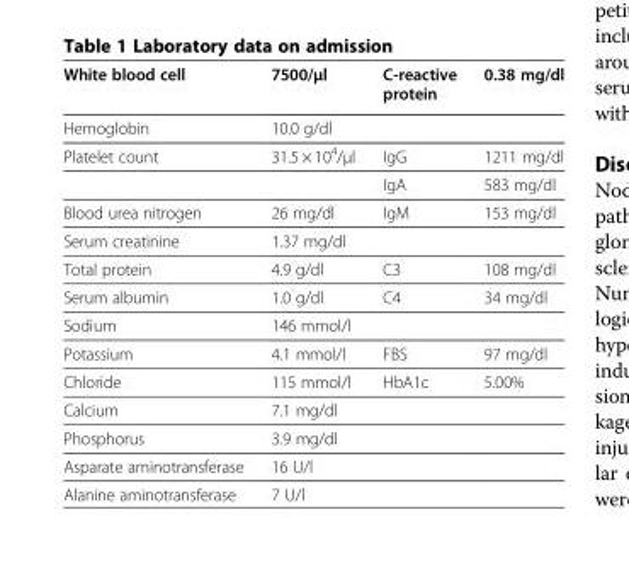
<table><thead><tr><td>White blood cell</td><td>7500/μl</td><td>C-reactive protein</td><td>0.38 mg/dl</td></tr></thead><tbody><tr><td>Hemoglobin</td><td>10.0 g/dl</td><td></td><td></td></tr><tr><td rowspan="2">Platelet count</td><td>31.5 × 10<sup>4</sup>/μl</td><td>IgG</td><td>1211 mg/dl</td></tr><tr><td></td><td>IgA</td><td>583 mg/dl</td></tr><tr><td>Blood urea nitrogen</td><td>26 mg/dl</td><td>IgM</td><td>153 mg/dl</td></tr><tr><td>Serum creatinine</td><td>1.37 mg/dl</td><td></td><td></td></tr><tr><td>Total protein</td><td>4.9 g/dl</td><td>C3</td><td>108 mg/dl</td></tr><tr><td>Serum albumin</td><td>1.0 g/dl</td><td>C4</td><td>34 mg/dl</td></tr><tr><td>Sodium</td><td>146 mmol/l</td><td></td><td></td></tr><tr><td>Potassium</td><td>4.1 mmol/l</td><td>FBS</td><td>97 mg/dl</td></tr><tr><td>Chloride</td><td>115 mmol/l</td><td>HbA1c</td><td>5.00%</td></tr><tr><td>Calcium</td><td>7.1 mg/dl</td><td></td><td></td></tr><tr><td>Phosphorus</td><td>3.9 mg/dl</td><td></td><td></td></tr><tr><td>Asparate aminotransferase</td><td>16 U/l</td><td></td><td></td></tr><tr><td>Alanine aminotransferase</td><td>7 U/l</td><td></td><td></td></tr></tbody></table>